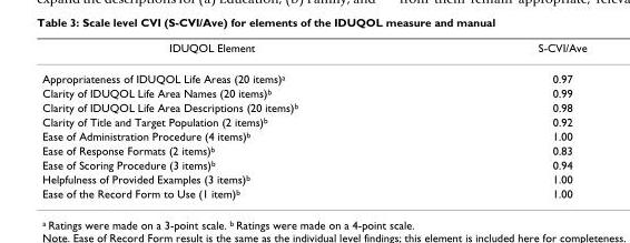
<table><thead><tr><td>IDUQOL Element</td><td>S-CVI/Ave</td></tr></thead><tbody><tr><td>Appropriateness of IDUQOL Life Areas (20 items)<sup>a</sup></td><td>0.97</td></tr><tr><td>Clarity of IDUQOL Life Area Names (20 items)<sup>b</sup></td><td>0.99</td></tr><tr><td>Clarity of IDUQOL Life Area Descriptions (20 items)<sup>b</sup></td><td>0.98</td></tr><tr><td>Clarity of Title and Target Population (2 items)<sup>b</sup></td><td>0.92</td></tr><tr><td>Ease of Administration Procedure (4 items)<sup>b</sup></td><td>1.00</td></tr><tr><td>Ease of Response Formats (2 items)<sup>b</sup></td><td>0.83</td></tr><tr><td>Ease of Scoring Procedure (3 items)<sup>b</sup></td><td>0.94</td></tr><tr><td>Helpfulness of Provided Examples (3 items)<sup>b</sup></td><td>1.00</td></tr><tr><td>Ease of the Record Form to Use (1 item)<sup>b</sup></td><td>1.00</td></tr></tbody></table>